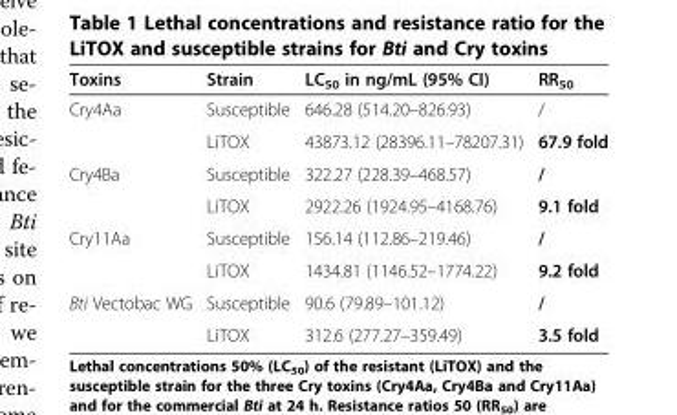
<table><thead><tr><td>Toxins</td><td>Strain</td><td>LC<sub>50</sub> in ng/mL (95% CI)</td><td>RR<sub>50</sub></td></tr></thead><tbody><tr><td rowspan="2">Cry4Aa</td><td>Susceptible</td><td>646.28 (514.20–826.93)</td><td>/</td></tr><tr><td>LiTOX</td><td>43873.12 (28396.11–78207.31)</td><td>67.9 fold</td></tr><tr><td rowspan="2">Cry4Ba</td><td>Susceptible</td><td>322.27 (228.39–468.57)</td><td>/</td></tr><tr><td>LiTOX</td><td>2922.26 (1924.95–4168.76)</td><td>9.1 fold</td></tr><tr><td rowspan="2">Cry11Aa</td><td>Susceptible</td><td>156.14 (112.86–219.46)</td><td>/</td></tr><tr><td>LiTOX</td><td>1434.81 (1146.52–1774.22)</td><td>9.2 fold</td></tr><tr><td rowspan="2">Bti Vectobac WG</td><td>Susceptible</td><td>90.6 (79.89–101.12)</td><td>/</td></tr><tr><td>LiTOX</td><td>312.6 (277.27–359.49)</td><td>3.5 fold</td></tr></tbody></table>